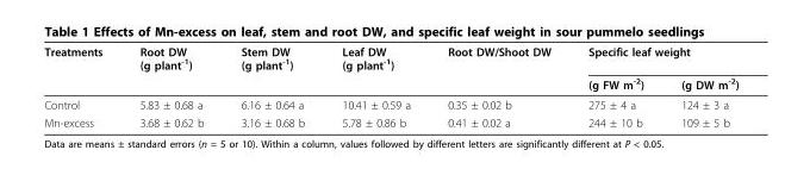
<table><thead><tr><td rowspan="2">Treatments</td><td rowspan="2">Root DW (g plant<sup>-1</sup>)</td><td rowspan="2">Stem DW (g plant<sup>-1</sup>)</td><td rowspan="2">Leaf DW (g plant<sup>-1</sup>)</td><td rowspan="2">Root DW/Shoot DW</td><td colspan="2">Specific leaf weight</td></tr><tr><td>(g FW m<sup>-2</sup>)</td><td>(g DW m<sup>-2</sup>)</td></tr></thead><tbody><tr><td>Control</td><td>5.83 ± 0.68 a</td><td>6.16 ± 0.64 a</td><td>10.41 ± 0.59 a</td><td>0.35 ± 0.02 b</td><td>275 ± 4 a</td><td>124 ± 3 a</td></tr><tr><td>Mn-excess</td><td>3.68 ± 0.62 b</td><td>3.16 ± 0.68 b</td><td>5.78 ± 0.86 b</td><td>0.41 ± 0.02 a</td><td>244 ± 10 b</td><td>109 ± 5 b</td></tr></tbody></table>